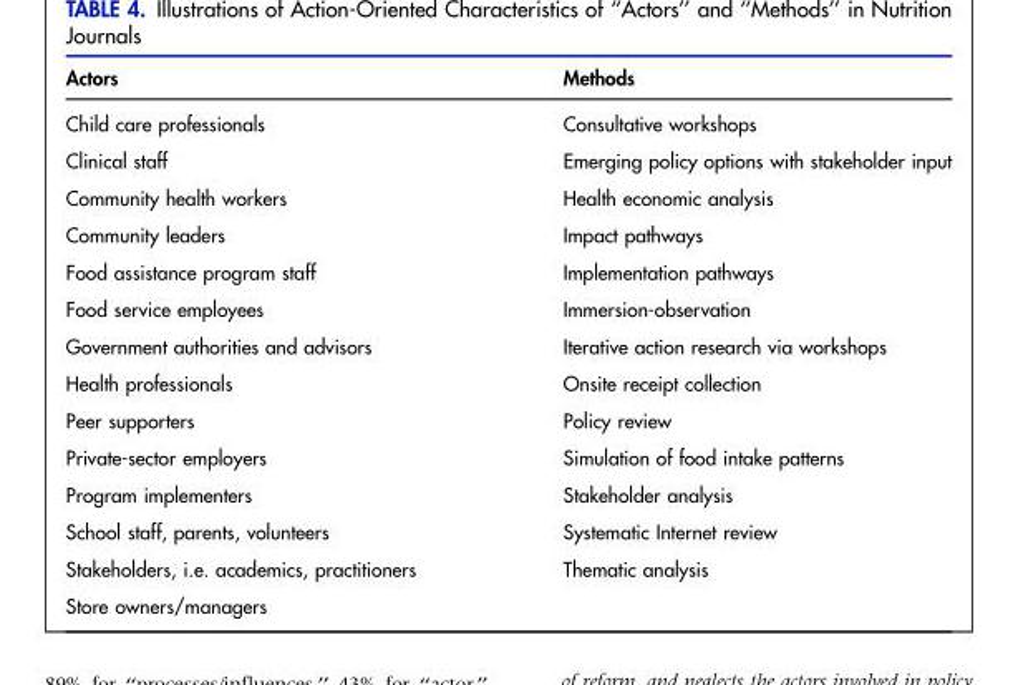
<table><thead><tr><td>Actors</td><td>Methods</td></tr></thead><tbody><tr><td>Child care professionals</td><td>Consultative workshops</td></tr><tr><td>Clinical staff</td><td>Emerging policy options with stakeholder input</td></tr><tr><td>Community health workers</td><td>Health economic analysis</td></tr><tr><td>Community leaders</td><td>Impact pathways</td></tr><tr><td>Food assistance program staff</td><td>Implementation pathways</td></tr><tr><td>Food service employees</td><td>Immersion-observation</td></tr><tr><td>Government authorities and advisors</td><td>Iterative action research via workshops</td></tr><tr><td>Health professionals</td><td>Onsite receipt collection</td></tr><tr><td>Peer supporters</td><td>Policy review</td></tr><tr><td>Private-sector employers</td><td>Simulation of food intake patterns</td></tr><tr><td>Program implementers</td><td>Stakeholder analysis</td></tr><tr><td>School staff, parents, volunteers</td><td>Systematic Internet review</td></tr><tr><td>Stakeholders, i.e. academics, practitioners</td><td>Thematic analysis</td></tr><tr><td>Store owners/managers</td><td></td></tr></tbody></table>